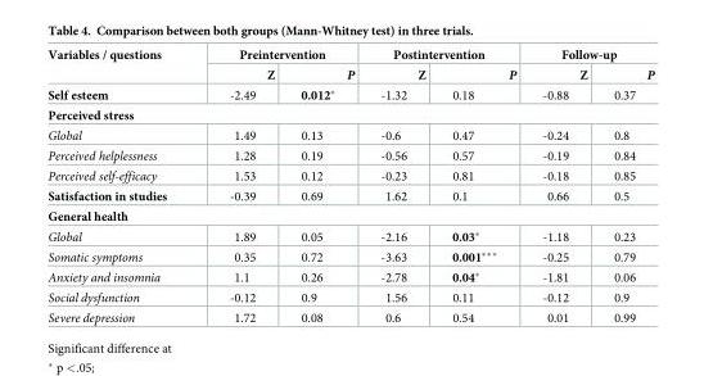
<table><thead><tr><td rowspan="2">Variables / questions</td><td colspan="2">Preintervention</td><td colspan="2">Postintervention</td><td colspan="2">Follow-up</td></tr><tr><td>Z</td><td>P</td><td>Z</td><td>P</td><td>Z</td><td>P</td></tr></thead><tbody><tr><td>Self esteem</td><td>-2.49</td><td>0.012*</td><td>-1.32</td><td>0.18</td><td>-0.88</td><td>0.37</td></tr><tr><td colspan="7">Perceived stress</td></tr><tr><td>Global</td><td>1.49</td><td>0.13</td><td>-0.6</td><td>0.47</td><td>-0.24</td><td>0.8</td></tr><tr><td>Perceived helplessness</td><td>1.28</td><td>0.19</td><td>-0.56</td><td>0.57</td><td>-0.19</td><td>0.84</td></tr><tr><td>Perceived self-efficacy</td><td>1.53</td><td>0.12</td><td>-0.23</td><td>0.81</td><td>-0.18</td><td>0.85</td></tr><tr><td>Satisfaction in studies</td><td>-0.39</td><td>0.69</td><td>1.62</td><td>0.1</td><td>0.66</td><td>0.5</td></tr><tr><td colspan="7">General health</td></tr><tr><td>Global</td><td>1.89</td><td>0.05</td><td>-2.16</td><td>0.03*</td><td>-1.18</td><td>0.23</td></tr><tr><td>Somatic symptoms</td><td>0.35</td><td>0.72</td><td>-3.63</td><td>0.001***</td><td>-0.25</td><td>0.79</td></tr><tr><td>Anxiety and insomnia</td><td>1.1</td><td>0.26</td><td>-2.78</td><td>0.04*</td><td>-1.81</td><td>0.06</td></tr><tr><td>Social dysfunction</td><td>-0.12</td><td>0.9</td><td>1.56</td><td>0.11</td><td>-0.12</td><td>0.9</td></tr><tr><td>Severe depression</td><td>1.72</td><td>0.08</td><td>0.6</td><td>0.54</td><td>0.01</td><td>0.99</td></tr></tbody></table>